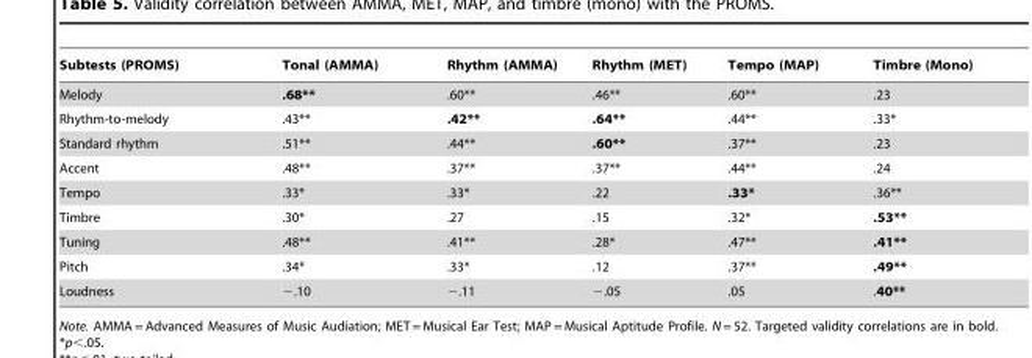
<table><thead><tr><td>Subtests (PROMS)</td><td>Tonal (AMMA)</td><td>Rhythm (AMMA)</td><td>Rhythm (MET)</td><td>Tempo (MAP)</td><td>Timbre (Mono)</td></tr></thead><tbody><tr><td>Melody</td><td>.68**</td><td>.60**</td><td>.46**</td><td>.60**</td><td>.23</td></tr><tr><td>Rhythm-to-melody</td><td>.43**</td><td>.42**</td><td>.64**</td><td>.44**</td><td>.33*</td></tr><tr><td>Standard rhythm</td><td>.51**</td><td>.44**</td><td>.60**</td><td>.37**</td><td>.23</td></tr><tr><td>Accent</td><td>.48**</td><td>.37**</td><td>.37**</td><td>.44**</td><td>.24</td></tr><tr><td>Tempo</td><td>.33*</td><td>.33*</td><td>.22</td><td>.33*</td><td>.36**</td></tr><tr><td>Timbre</td><td>.30*</td><td>.27</td><td>.15</td><td>.32*</td><td>.53**</td></tr><tr><td>Tuning</td><td>.48**</td><td>.41**</td><td>.28*</td><td>.47**</td><td>.41**</td></tr><tr><td>Pitch</td><td>.34*</td><td>.33*</td><td>.12</td><td>.37**</td><td>.49**</td></tr><tr><td>Loudness</td><td>−.10</td><td>−.11</td><td>−.05</td><td>.05</td><td>.40**</td></tr></tbody></table>